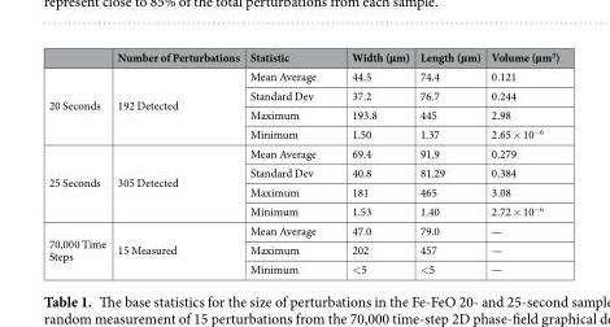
<table><thead><tr><td></td><td>Number of Perturbations</td><td>Statistic</td><td>Width (µm)</td><td>Length (µm)</td><td>Volume (µm<sup>3</sup>)</td></tr></thead><tbody><tr><td rowspan="4">20 Seconds</td><td rowspan="4">192 Detected</td><td>Mean Average</td><td>44.5</td><td>74.4</td><td>0.121</td></tr><tr><td>Standard Dev</td><td>37.2</td><td>76.7</td><td>0.244</td></tr><tr><td>Maximum</td><td>193.8</td><td>445</td><td>2.98</td></tr><tr><td>Minimum</td><td>1.50</td><td>1.37</td><td>2.65 × 10<sup>−6</sup></td></tr><tr><td rowspan="4">25 Seconds</td><td rowspan="4">305 Detected</td><td>Mean Average</td><td>69.4</td><td>91.9</td><td>0.279</td></tr><tr><td>Standard Dev</td><td>40.8</td><td>81.29</td><td>0.384</td></tr><tr><td>Maximum</td><td>181</td><td>465</td><td>3.08</td></tr><tr><td>Minimum</td><td>1.53</td><td>1.40</td><td>2.72 × 10<sup>−6</sup></td></tr><tr><td rowspan="3">70,000 Time Steps</td><td rowspan="3">15 Measured</td><td>Mean Average</td><td>47.0</td><td>79.0</td><td>—</td></tr><tr><td>Maximum</td><td>202</td><td>457</td><td>—</td></tr><tr><td>Minimum</td><td>&lt;5</td><td>&lt;5</td><td>—</td></tr></tbody></table>